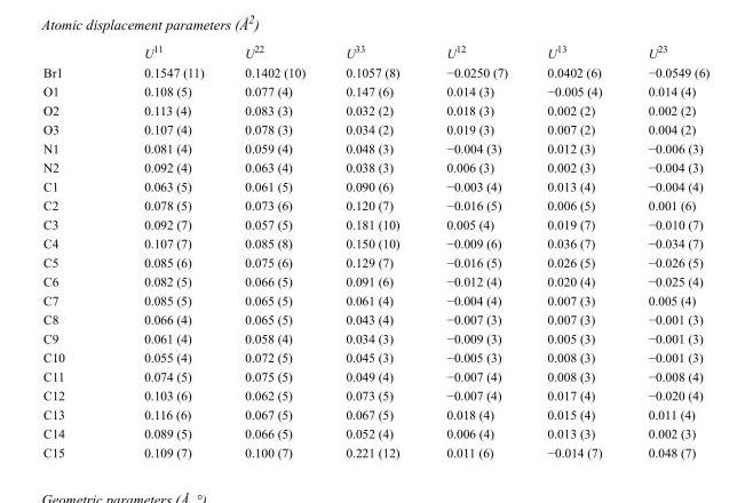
<table><thead><tr><td></td><td>U<sup>11</sup></td><td>U<sup>22</sup></td><td>U<sup>33</sup></td><td>U<sup>12</sup></td><td>U<sup>13</sup></td><td>U<sup>23</sup></td></tr></thead><tbody><tr><td>Br1</td><td>0.1547 (11)</td><td>0.1402 (10)</td><td>0.1057 (8)</td><td>−0.0250 (7)</td><td>0.0402 (6)</td><td>−0.0549 (6)</td></tr><tr><td>O1</td><td>0.108 (5)</td><td>0.077 (4)</td><td>0.147 (6)</td><td>0.014 (3)</td><td>−0.005 (4)</td><td>0.014 (4)</td></tr><tr><td>O2</td><td>0.113 (4)</td><td>0.083 (3)</td><td>0.032 (2)</td><td>0.018 (3)</td><td>0.002 (2)</td><td>0.002 (2)</td></tr><tr><td>O3</td><td>0.107 (4)</td><td>0.078 (3)</td><td>0.034 (2)</td><td>0.019 (3)</td><td>0.007 (2)</td><td>0.004 (2)</td></tr><tr><td>N1</td><td>0.081 (4)</td><td>0.059 (4)</td><td>0.048 (3)</td><td>−0.004 (3)</td><td>0.012 (3)</td><td>−0.006 (3)</td></tr><tr><td>N2</td><td>0.092 (4)</td><td>0.063 (4)</td><td>0.038 (3)</td><td>0.006 (3)</td><td>0.002 (3)</td><td>−0.004 (3)</td></tr><tr><td>C1</td><td>0.063 (5)</td><td>0.061 (5)</td><td>0.090 (6)</td><td>−0.003 (4)</td><td>0.013 (4)</td><td>−0.004 (4)</td></tr><tr><td>C2</td><td>0.078 (5)</td><td>0.073 (6)</td><td>0.120 (7)</td><td>−0.016 (5)</td><td>0.006 (5)</td><td>0.001 (6)</td></tr><tr><td>C3</td><td>0.092 (7)</td><td>0.057 (5)</td><td>0.181 (10)</td><td>0.005 (4)</td><td>0.019 (7)</td><td>−0.010 (7)</td></tr><tr><td>C4</td><td>0.107 (7)</td><td>0.085 (8)</td><td>0.150 (10)</td><td>−0.009 (6)</td><td>0.036 (7)</td><td>−0.034 (7)</td></tr><tr><td>C5</td><td>0.085 (6)</td><td>0.075 (6)</td><td>0.129 (7)</td><td>−0.016 (5)</td><td>0.026 (5)</td><td>−0.026 (5)</td></tr><tr><td>C6</td><td>0.082 (5)</td><td>0.066 (5)</td><td>0.091 (6)</td><td>−0.012 (4)</td><td>0.020 (4)</td><td>−0.025 (4)</td></tr><tr><td>C7</td><td>0.085 (5)</td><td>0.065 (5)</td><td>0.061 (4)</td><td>−0.004 (4)</td><td>0.007 (3)</td><td>0.005 (4)</td></tr><tr><td>C8</td><td>0.066 (4)</td><td>0.065 (5)</td><td>0.043 (4)</td><td>−0.007 (3)</td><td>0.007 (3)</td><td>−0.001 (3)</td></tr><tr><td>C9</td><td>0.061 (4)</td><td>0.058 (4)</td><td>0.034 (3)</td><td>−0.009 (3)</td><td>0.005 (3)</td><td>−0.001 (3)</td></tr><tr><td>C10</td><td>0.055 (4)</td><td>0.072 (5)</td><td>0.045 (3)</td><td>−0.005 (3)</td><td>0.008 (3)</td><td>−0.001 (3)</td></tr><tr><td>C11</td><td>0.074 (5)</td><td>0.075 (5)</td><td>0.049 (4)</td><td>−0.007 (4)</td><td>0.008 (3)</td><td>−0.008 (4)</td></tr><tr><td>C12</td><td>0.103 (6)</td><td>0.062 (5)</td><td>0.073 (5)</td><td>−0.007 (4)</td><td>0.017 (4)</td><td>−0.020 (4)</td></tr><tr><td>C13</td><td>0.116 (6)</td><td>0.067 (5)</td><td>0.067 (5)</td><td>0.018 (4)</td><td>0.015 (4)</td><td>0.011 (4)</td></tr><tr><td>C14</td><td>0.089 (5)</td><td>0.066 (5)</td><td>0.052 (4)</td><td>0.006 (4)</td><td>0.013 (3)</td><td>0.002 (3)</td></tr><tr><td>C15</td><td>0.109 (7)</td><td>0.100 (7)</td><td>0.221 (12)</td><td>0.011 (6)</td><td>−0.014 (7)</td><td>0.048 (7)</td></tr></tbody></table>